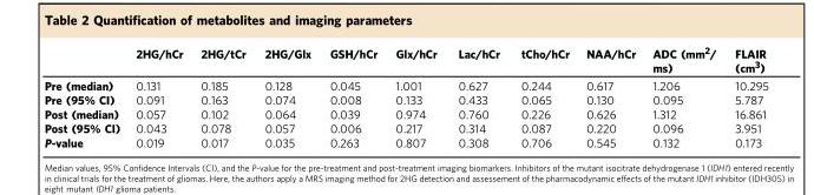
<table><thead><tr><td></td><td>2HG/hCr</td><td>2HG/tCr</td><td>2HG/Glx</td><td>GSH/hCr</td><td>Glx/hCr</td><td>Lac/hCr</td><td>tCho/hCr</td><td>NAA/hCr</td><td>ADC (mm<sup>2</sup>/ ms)</td><td>FLAIR (cm<sup>3</sup>)</td></tr></thead><tbody><tr><td>Pre (median)</td><td>0.131</td><td>0.185</td><td>0.128</td><td>0.045</td><td>1.001</td><td>0.627</td><td>0.244</td><td>0.617</td><td>1.206</td><td>10.295</td></tr><tr><td>Pre (95% CI)</td><td>0.091</td><td>0.163</td><td>0.074</td><td>0.008</td><td>0.133</td><td>0.433</td><td>0.065</td><td>0.130</td><td>0.095</td><td>5.787</td></tr><tr><td>Post (median)</td><td>0.057</td><td>0.102</td><td>0.064</td><td>0.039</td><td>0.974</td><td>0.760</td><td>0.226</td><td>0.626</td><td>1.312</td><td>16.861</td></tr><tr><td>Post (95% CI)</td><td>0.043</td><td>0.078</td><td>0.057</td><td>0.006</td><td>0.217</td><td>0.314</td><td>0.087</td><td>0.220</td><td>0.096</td><td>3.951</td></tr><tr><td>P-value</td><td>0.019</td><td>0.017</td><td>0.035</td><td>0.263</td><td>0.807</td><td>0.308</td><td>0.706</td><td>0.545</td><td>0.132</td><td>0.173</td></tr></tbody></table>